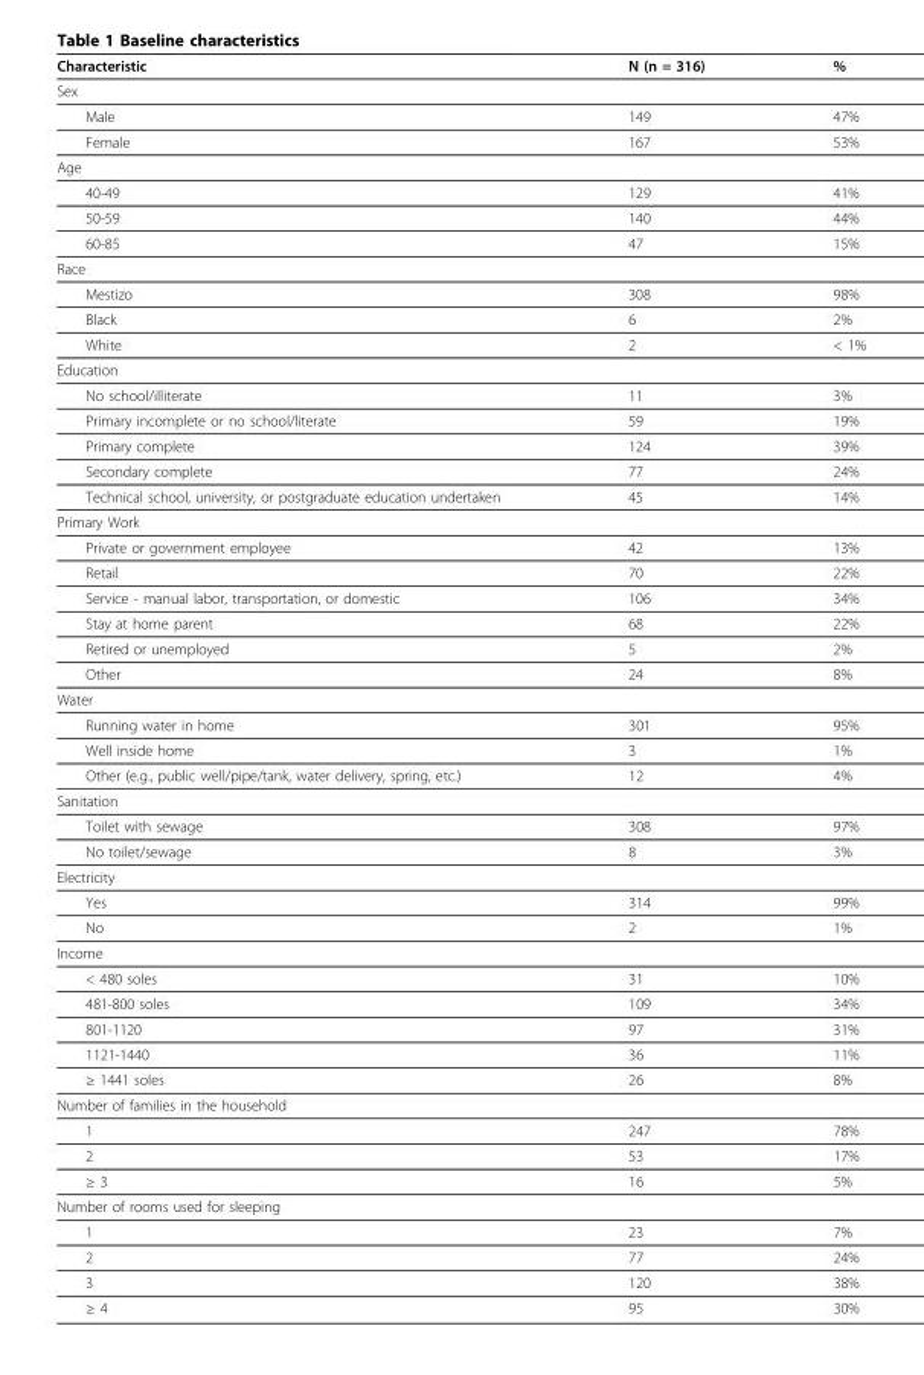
<table><thead><tr><td>Characteristic</td><td>N (n = 316)</td><td>%</td></tr></thead><tbody><tr><td colspan="3">Sex</td></tr><tr><td>Male</td><td>149</td><td>47%</td></tr><tr><td>Female</td><td>167</td><td>53%</td></tr><tr><td colspan="3">Age</td></tr><tr><td>40-49</td><td>129</td><td>41%</td></tr><tr><td>50-59</td><td>140</td><td>44%</td></tr><tr><td>60-85</td><td>47</td><td>15%</td></tr><tr><td colspan="3">Race</td></tr><tr><td>Mestizo</td><td>308</td><td>98%</td></tr><tr><td>Black</td><td>6</td><td>2%</td></tr><tr><td>White</td><td>2</td><td>&lt; 1%</td></tr><tr><td colspan="3">Education</td></tr><tr><td>No school/illiterate</td><td>11</td><td>3%</td></tr><tr><td>Primary incomplete or no school/literate</td><td>59</td><td>19%</td></tr><tr><td>Primary complete</td><td>124</td><td>39%</td></tr><tr><td>Secondary complete</td><td>77</td><td>24%</td></tr><tr><td>Technical school, university, or postgraduate education undertaken</td><td>45</td><td>14%</td></tr><tr><td colspan="3">Primary Work</td></tr><tr><td>Private or government employee</td><td>42</td><td>13%</td></tr><tr><td>Retail</td><td>70</td><td>22%</td></tr><tr><td>Service - manual labor, transportation, or domestic</td><td>106</td><td>34%</td></tr><tr><td>Stay at home parent</td><td>68</td><td>22%</td></tr><tr><td>Retired or unemployed</td><td>5</td><td>2%</td></tr><tr><td>Other</td><td>24</td><td>8%</td></tr><tr><td colspan="3">Water</td></tr><tr><td>Running water in home</td><td>301</td><td>95%</td></tr><tr><td>Well inside home</td><td>3</td><td>1%</td></tr><tr><td>Other (e.g., public well/pipe/tank, water delivery, spring, etc.)</td><td>12</td><td>4%</td></tr><tr><td colspan="3">Sanitation</td></tr><tr><td>Toilet with sewage</td><td>308</td><td>97%</td></tr><tr><td>No toilet/sewage</td><td>8</td><td>3%</td></tr><tr><td colspan="3">Electricity</td></tr><tr><td>Yes</td><td>314</td><td>99%</td></tr><tr><td>No</td><td>2</td><td>1%</td></tr><tr><td colspan="3">Income</td></tr><tr><td>&lt; 480 soles</td><td>31</td><td>10%</td></tr><tr><td>481-800 soles</td><td>109</td><td>34%</td></tr><tr><td>801-1120</td><td>97</td><td>31%</td></tr><tr><td>1121-1440</td><td>36</td><td>11%</td></tr><tr><td>≥ 1441 soles</td><td>26</td><td>8%</td></tr><tr><td colspan="3">Number of families in the household</td></tr><tr><td>1</td><td>247</td><td>78%</td></tr><tr><td>2</td><td>53</td><td>17%</td></tr><tr><td>≥ 3</td><td>16</td><td>5%</td></tr><tr><td colspan="3">Number of rooms used for sleeping</td></tr><tr><td>1</td><td>23</td><td>7%</td></tr><tr><td>2</td><td>77</td><td>24%</td></tr><tr><td>3</td><td>120</td><td>38%</td></tr><tr><td>≥ 4</td><td>95</td><td>30%</td></tr></tbody></table>